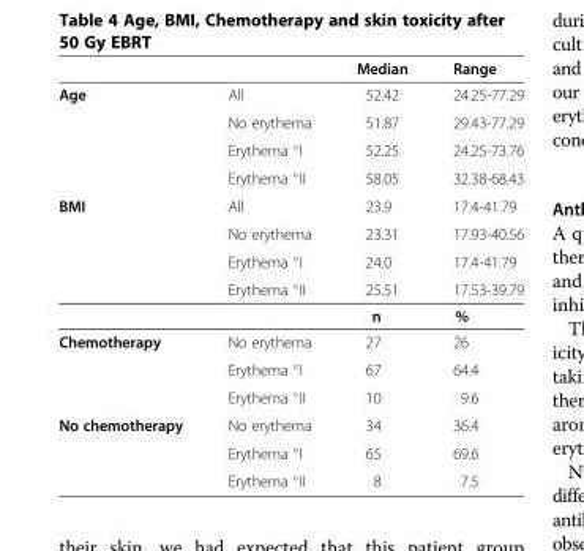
<table><thead><tr><td></td><td></td><td>Median</td><td>Range</td></tr></thead><tbody><tr><td rowspan="4">Age</td><td>All</td><td>52.42</td><td>24.25-77.29</td></tr><tr><td>No erythema</td><td>51.87</td><td>29.43-77.29</td></tr><tr><td>Erythema °I</td><td>52.25</td><td>24.25-73.76</td></tr><tr><td>Erythema °II</td><td>58.05</td><td>32.38-68.43</td></tr><tr><td rowspan="5">BMI</td><td>All</td><td>23.9</td><td>17.4-41.79</td></tr><tr><td>No erythema</td><td>23.31</td><td>17.93-40.56</td></tr><tr><td>Erythema °I</td><td>24.0</td><td>17.4-41.79</td></tr><tr><td>Erythema °II</td><td>25.51</td><td>17.53-39.79</td></tr><tr><td></td><td>n</td><td>%</td></tr><tr><td rowspan="3">Chemotherapy</td><td>No erythema</td><td>27</td><td>26</td></tr><tr><td>Erythema °I</td><td>67</td><td>64.4</td></tr><tr><td>Erythema °II</td><td>10</td><td>9.6</td></tr><tr><td rowspan="3">No chemotherapy</td><td>No erythema</td><td>34</td><td>36.4</td></tr><tr><td>Erythema °I</td><td>65</td><td>69.6</td></tr><tr><td>Erythema °II</td><td>8</td><td>7.5</td></tr></tbody></table>